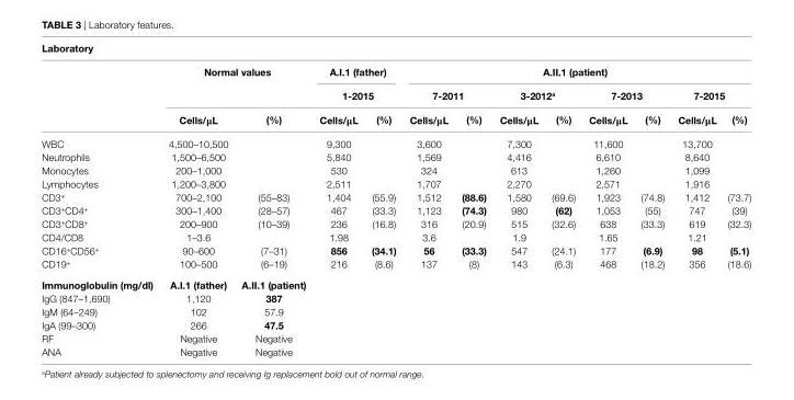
<table><thead><tr><td colspan="13">laboratory</td></tr><tr><td rowspan="3"></td><td rowspan="2" colspan="2">normal values</td><td rowspan="2" colspan="2">a.i.1 (father) 1-2015</td><td colspan="8">a.ii.1 (patient)</td></tr><tr><td colspan="2">7-2011</td><td colspan="2">3-2012a</td><td colspan="2">7-2013</td><td colspan="2">7-2015</td></tr><tr><td>cells/μl</td><td>(%)</td><td>cells/μl</td><td>(%)</td><td>cells/μl</td><td>(%)</td><td>cells/μl</td><td>(%)</td><td>cells/μl</td><td>(%)</td><td>cells/μl</td><td>(%)</td></tr></thead><tbody><tr><td>WBC</td><td>4,500–10,500</td><td></td><td>9,300</td><td></td><td>3,600</td><td></td><td>7,300</td><td></td><td>11,600</td><td></td><td>13,700</td><td></td></tr><tr><td>Neutrophils</td><td>1,500–6,500</td><td></td><td>5,840</td><td></td><td>1,569</td><td></td><td>4,416</td><td></td><td>6,610</td><td></td><td>8,640</td><td></td></tr><tr><td>Monocytes</td><td>200–1,000</td><td></td><td>530</td><td></td><td>324</td><td></td><td>613</td><td></td><td>1,260</td><td></td><td>1,099</td><td></td></tr><tr><td>Lymphocytes</td><td>1,200–3,800</td><td></td><td>2,511</td><td></td><td>1,707</td><td></td><td>2,270</td><td></td><td>2,571</td><td></td><td>1,916</td><td></td></tr><tr><td>CD3<sup>+</sup></td><td>700–2,100</td><td>(55–83)</td><td>1,404</td><td>(55.9)</td><td>1,512</td><td>(88.6)</td><td>1,580</td><td>(69.6)</td><td>1,923</td><td>(74.8)</td><td>1,412</td><td>(73.7)</td></tr><tr><td>CD3<sup>+</sup>CD4<sup>+</sup></td><td>300–1,400</td><td>(28–57)</td><td>467</td><td>(33.3)</td><td>1,123</td><td>(74.3)</td><td>980</td><td>(62)</td><td>1,053</td><td>(55)</td><td>747</td><td>(39)</td></tr><tr><td>CD3<sup>+</sup>CD8<sup>+</sup></td><td>200–900</td><td>(10–39)</td><td>236</td><td>(16.8)</td><td>316</td><td>(20.9)</td><td>515</td><td>(32.6)</td><td>638</td><td>(33.3)</td><td>619</td><td>(32.3)</td></tr><tr><td>CD4/CD8</td><td>1–3.6</td><td></td><td>1.98</td><td></td><td>3.6</td><td></td><td>1.9</td><td></td><td>1.65</td><td></td><td>1.21</td><td></td></tr><tr><td>CD16<sup>+</sup>CD56<sup>+</sup></td><td>90–600</td><td>(7–31)</td><td>856</td><td>(34.1)</td><td>56</td><td>(33.3)</td><td>547</td><td>(24.1)</td><td>177</td><td>(6.9)</td><td>98</td><td>(5.1)</td></tr><tr><td>CD19<sup>+</sup></td><td>100–500</td><td>(6–19)</td><td>216</td><td>(8.6)</td><td>137</td><td>(8)</td><td>143</td><td>(6.3)</td><td>468</td><td>(18.2)</td><td>356</td><td>(18.6)</td></tr><tr><td>immunoglobulin (mg/dl)</td><td>a.i.1 (father)</td><td>a.ii.1 (patient)</td><td></td><td></td><td></td><td></td><td></td><td></td><td></td><td></td><td></td><td></td></tr><tr><td>IgG (847–1,690)</td><td>1,120</td><td>387</td><td></td><td></td><td></td><td></td><td></td><td></td><td></td><td></td><td></td><td></td></tr><tr><td>IgM (64–249)</td><td>102</td><td>57.9</td><td></td><td></td><td></td><td></td><td></td><td></td><td></td><td></td><td></td><td></td></tr><tr><td>IgA (99–300)</td><td>266</td><td>47.5</td><td></td><td></td><td></td><td></td><td></td><td></td><td></td><td></td><td></td><td></td></tr><tr><td>RF</td><td>Negative</td><td>Negative</td><td></td><td></td><td></td><td></td><td></td><td></td><td></td><td></td><td></td><td></td></tr><tr><td>ANA</td><td>Negative</td><td>Negative</td><td></td><td></td><td></td><td></td><td></td><td></td><td></td><td></td><td></td><td></td></tr></tbody></table>